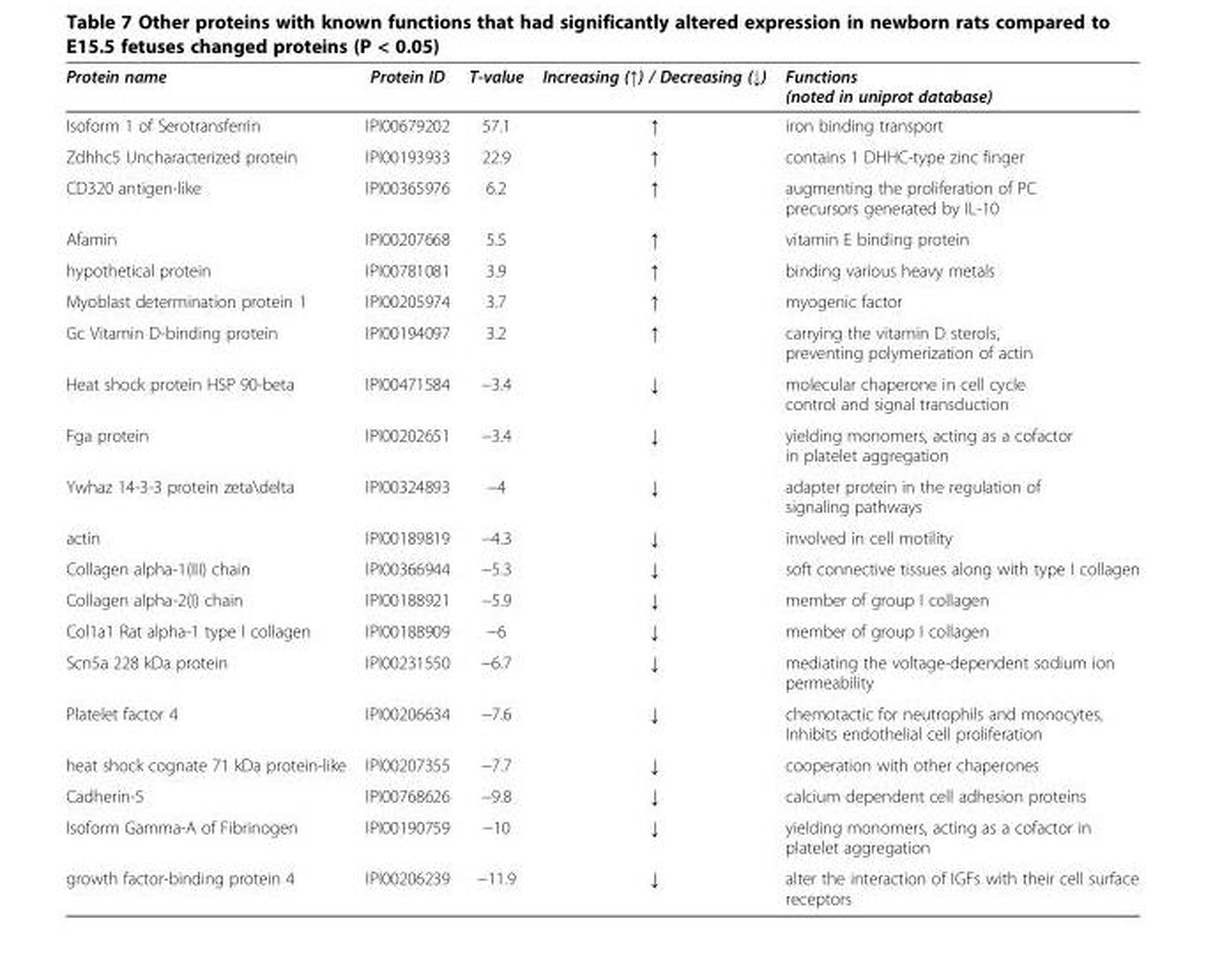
<table><thead><tr><td>Protein name</td><td>Protein ID</td><td>T-value</td><td>Increasing (↑) / Decreasing (↓)</td><td>Functions (noted in uniprot database)</td></tr></thead><tbody><tr><td>Isoform 1 of Serotransferrin</td><td>IPI00679202</td><td>57.1</td><td>↑</td><td>iron binding transport</td></tr><tr><td>Zdhhc5 Uncharacterized protein</td><td>IPI00193933</td><td>22.9</td><td>↑</td><td>contains 1 DHHC-type zinc finger</td></tr><tr><td>CD320 antigen-like</td><td>IPI00365976</td><td>6.2</td><td>↑</td><td>augmenting the proliferation of PC precursors generated by IL-10</td></tr><tr><td>Afamin</td><td>IPI00207668</td><td>5.5</td><td>↑</td><td>vitamin E binding protein</td></tr><tr><td>hypothetical protein</td><td>IPI00781081</td><td>3.9</td><td>↑</td><td>binding various heavy metals</td></tr><tr><td>Myoblast determination protein 1</td><td>IPI00205974</td><td>3.7</td><td>↑</td><td>myogenic factor</td></tr><tr><td>Gc Vitamin D-binding protein</td><td>IPI00194097</td><td>3.2</td><td>↑</td><td>carrying the vitamin D sterols, preventing polymerization of actin</td></tr><tr><td>Heat shock protein HSP 90-beta</td><td>IPI00471584</td><td>−3.4</td><td>↓</td><td>molecular chaperone in cell cycle control and signal transduction</td></tr><tr><td>Fga protein</td><td>IPI00202651</td><td>−3.4</td><td>↓</td><td>yielding monomers, acting as a cofactor in platelet aggregation</td></tr><tr><td>Ywhaz 14-3-3 protein zeta\delta</td><td>IPI00324893</td><td>−4</td><td>↓</td><td>adapter protein in the regulation of signaling pathways</td></tr><tr><td>actin</td><td>IPI00189819</td><td>−4.3</td><td>↓</td><td>involved in cell motility</td></tr><tr><td>Collagen alpha-1(III) chain</td><td>IPI00366944</td><td>−5.3</td><td>↓</td><td>soft connective tissues along with type I collagen</td></tr><tr><td>Collagen alpha-2(I) chain</td><td>IPI00188921</td><td>−5.9</td><td>↓</td><td>member of group I collagen</td></tr><tr><td>Col1a1 Rat alpha-1 type I collagen</td><td>IPI00188909</td><td>−6</td><td>↓</td><td>member of group I collagen</td></tr><tr><td>Scn5a 228 kDa protein</td><td>IPI00231550</td><td>−6.7</td><td>↓</td><td>mediating the voltage-dependent sodium ion permeability</td></tr><tr><td>Platelet factor 4</td><td>IPI00206634</td><td>−7.6</td><td>↓</td><td>chemotactic for neutrophils and monocytes, Inhibits endothelial cell proliferation</td></tr><tr><td>heat shock cognate 71 kDa protein-like</td><td>IPI00207355</td><td>−7.7</td><td>↓</td><td>cooperation with other chaperones</td></tr><tr><td>Cadherin-5</td><td>IPI00768626</td><td>−9.8</td><td>↓</td><td>calcium dependent cell adhesion proteins</td></tr><tr><td>Isoform Gamma-A of Fibrinogen</td><td>IPI00190759</td><td>−10</td><td>↓</td><td>yielding monomers, acting as a cofactor in platelet aggregation</td></tr><tr><td>growth factor-binding protein 4</td><td>IPI00206239</td><td>−11.9</td><td>↓</td><td>alter the interaction of IGFs with their cell surface receptors</td></tr></tbody></table>